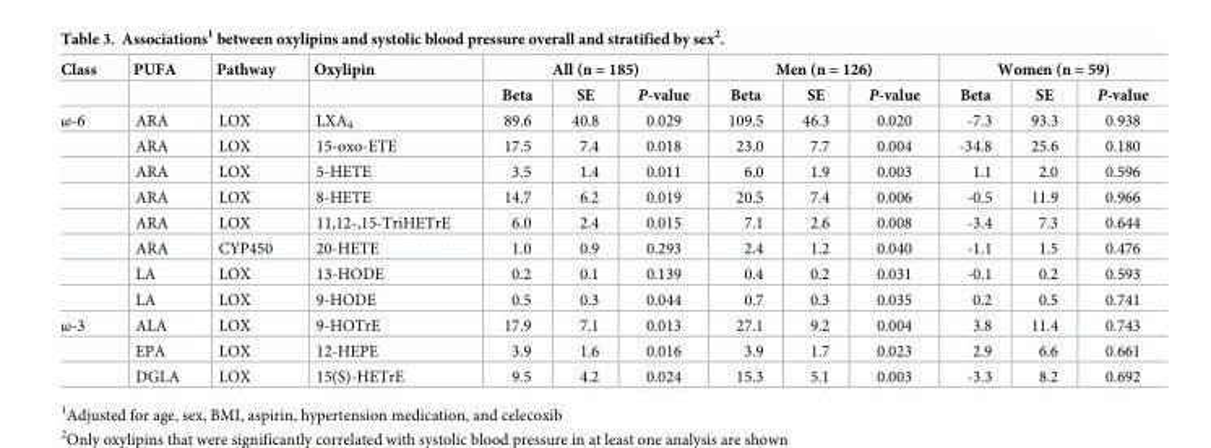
<table><thead><tr><td rowspan="2">Class</td><td rowspan="2">PUFA</td><td rowspan="2">Pathway</td><td rowspan="2">Oxylipin</td><td colspan="3">All (n = 185)</td><td colspan="3">Men (n = 126)</td><td colspan="3">Women (n = 59)</td></tr><tr><td>Beta</td><td>SE</td><td>P-value</td><td>Beta</td><td>SE</td><td>P-value</td><td>Beta</td><td>SE</td><td>P-value</td></tr></thead><tbody><tr><td rowspan="8">ω-6</td><td>ARA</td><td>LOX</td><td>LXA<sub>4</sub></td><td>89.6</td><td>40.8</td><td>0.029</td><td>109.5</td><td>46.3</td><td>0.020</td><td>-7.3</td><td>93.3</td><td>0.938</td></tr><tr><td>ARA</td><td>LOX</td><td>15-oxo-ETE</td><td>17.5</td><td>7.4</td><td>0.018</td><td>23.0</td><td>7.7</td><td>0.004</td><td>-34.8</td><td>25.6</td><td>0.180</td></tr><tr><td>ARA</td><td>LOX</td><td>5-HETE</td><td>3.5</td><td>1.4</td><td>0.011</td><td>6.0</td><td>1.9</td><td>0.003</td><td>1.1</td><td>2.0</td><td>0.596</td></tr><tr><td>ARA</td><td>LOX</td><td>8-HETE</td><td>14.7</td><td>6.2</td><td>0.019</td><td>20.5</td><td>7.4</td><td>0.006</td><td>-0.5</td><td>11.9</td><td>0.966</td></tr><tr><td>ARA</td><td>LOX</td><td>11,12-,15-TriHETrE</td><td>6.0</td><td>2.4</td><td>0.015</td><td>7.1</td><td>2.6</td><td>0.008</td><td>-3.4</td><td>7.3</td><td>0.644</td></tr><tr><td>ARA</td><td>CYP450</td><td>20-HETE</td><td>1.0</td><td>0.9</td><td>0.293</td><td>2.4</td><td>1.2</td><td>0.040</td><td>-1.1</td><td>1.5</td><td>0.476</td></tr><tr><td>LA</td><td>LOX</td><td>13-HODE</td><td>0.2</td><td>0.1</td><td>0.139</td><td>0.4</td><td>0.2</td><td>0.031</td><td>-0.1</td><td>0.2</td><td>0.593</td></tr><tr><td>LA</td><td>LOX</td><td>9-HODE</td><td>0.5</td><td>0.3</td><td>0.044</td><td>0.7</td><td>0.3</td><td>0.035</td><td>0.2</td><td>0.5</td><td>0.741</td></tr><tr><td rowspan="3">ω-3</td><td>ALA</td><td>LOX</td><td>9-HOTrE</td><td>17.9</td><td>7.1</td><td>0.013</td><td>27.1</td><td>9.2</td><td>0.004</td><td>3.8</td><td>11.4</td><td>0.743</td></tr><tr><td>EPA</td><td>LOX</td><td>12-HEPE</td><td>3.9</td><td>1.6</td><td>0.016</td><td>3.9</td><td>1.7</td><td>0.023</td><td>2.9</td><td>6.6</td><td>0.661</td></tr><tr><td>DGLA</td><td>LOX</td><td>15(S)-HETrE</td><td>9.5</td><td>4.2</td><td>0.024</td><td>15.3</td><td>5.1</td><td>0.003</td><td>-3.3</td><td>8.2</td><td>0.692</td></tr></tbody></table>